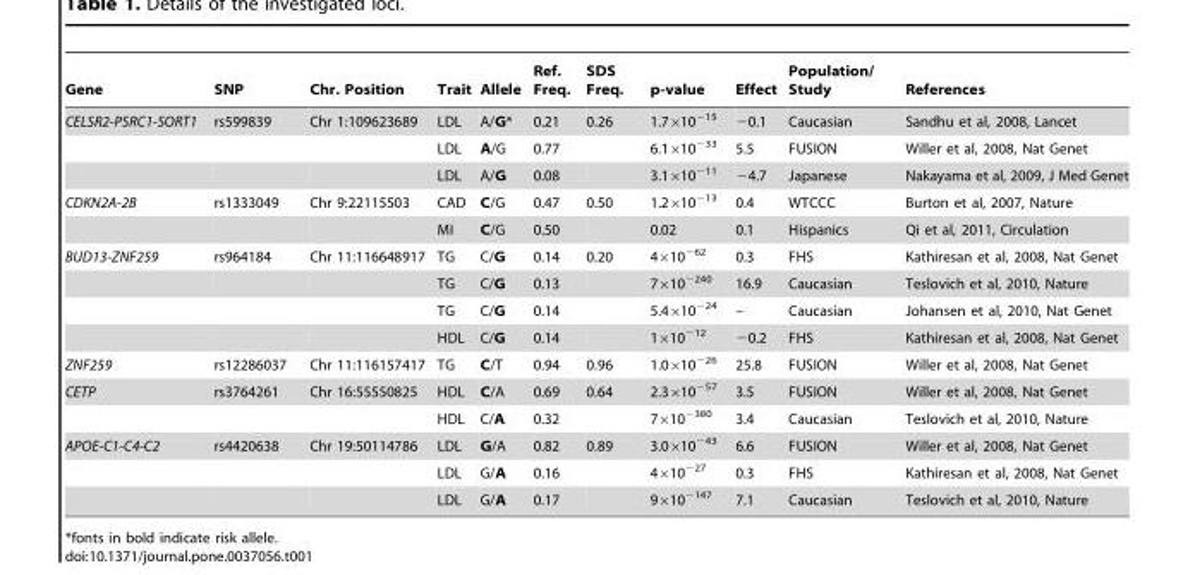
<table><thead><tr><td>Gene</td><td>SNP</td><td>Chr. Position</td><td>Trait</td><td>Allele</td><td>Ref. Freq.</td><td>SDS Freq.</td><td>p-value</td><td>Effect</td><td>Population/ Study</td><td>References</td></tr></thead><tbody><tr><td rowspan="3">CELSR2-PSRC1-SORT1</td><td>rs599839</td><td>Chr 1:109623689</td><td>LDL</td><td>A/G*</td><td>0.21</td><td>0.26</td><td>1.7×10<sup>−15</sup></td><td>−0.1</td><td>Caucasian</td><td>Sandhu et al, 2008, Lancet</td></tr><tr><td></td><td></td><td>LDL</td><td>A/G</td><td>0.77</td><td></td><td>6.1×10<sup>−33</sup></td><td>5.5</td><td>FUSION</td><td>Willer et al, 2008, Nat Genet</td></tr><tr><td></td><td></td><td>LDL</td><td>A/G</td><td>0.08</td><td></td><td>3.1×10<sup>−11</sup></td><td>−4.7</td><td>Japanese</td><td>Nakayama et al, 2009, J Med Genet</td></tr><tr><td rowspan="2">CDKN2A-2B</td><td>rs1333049</td><td>Chr 9:22115503</td><td>CAD</td><td>C/G</td><td>0.47</td><td>0.50</td><td>1.2×10<sup>−13</sup></td><td>0.4</td><td>WTCCC</td><td>Burton et al, 2007, Nature</td></tr><tr><td></td><td></td><td>MI</td><td>C/G</td><td>0.50</td><td></td><td>0.02</td><td>0.1</td><td>Hispanics</td><td>Qi et al, 2011, Circulation</td></tr><tr><td rowspan="4">BUD13-ZNF259</td><td>rs964184</td><td>Chr 11:116648917</td><td>TG</td><td>C/G</td><td>0.14</td><td>0.20</td><td>4×10<sup>−62</sup></td><td>0.3</td><td>FHS</td><td>Kathiresan et al, 2008, Nat Genet</td></tr><tr><td></td><td></td><td>TG</td><td>C/G</td><td>0.13</td><td></td><td>7×10<sup>−240</sup></td><td>16.9</td><td>Caucasian</td><td>Teslovich et al, 2010, Nature</td></tr><tr><td></td><td></td><td>TG</td><td>C/G</td><td>0.14</td><td></td><td>5.4×10<sup>−24</sup></td><td>–</td><td>Caucasian</td><td>Johansen et al, 2010, Nat Genet</td></tr><tr><td></td><td></td><td>HDL</td><td>C/G</td><td>0.14</td><td></td><td>1×10<sup>−12</sup></td><td>−0.2</td><td>FHS</td><td>Kathiresan et al, 2008, Nat Genet</td></tr><tr><td>ZNF259</td><td>rs12286037</td><td>Chr 11:116157417</td><td>TG</td><td>C/T</td><td>0.94</td><td>0.96</td><td>1.0×10<sup>−26</sup></td><td>25.8</td><td>FUSION</td><td>Willer et al, 2008, Nat Genet</td></tr><tr><td rowspan="2">CETP</td><td>rs3764261</td><td>Chr 16:55550825</td><td>HDL</td><td>C/A</td><td>0.69</td><td>0.64</td><td>2.3×10<sup>−57</sup></td><td>3.5</td><td>FUSION</td><td>Willer et al, 2008, Nat Genet</td></tr><tr><td></td><td></td><td>HDL</td><td>C/A</td><td>0.32</td><td></td><td>7×10<sup>−380</sup></td><td>3.4</td><td>Caucasian</td><td>Teslovich et al, 2010, Nature</td></tr><tr><td rowspan="3">APOE-C1-C4-C2</td><td>rs4420638</td><td>Chr 19:50114786</td><td>LDL</td><td>G/A</td><td>0.82</td><td>0.89</td><td>3.0×10<sup>−43</sup></td><td>6.6</td><td>FUSION</td><td>Willer et al, 2008, Nat Genet</td></tr><tr><td></td><td></td><td>LDL</td><td>G/A</td><td>0.16</td><td></td><td>4×10<sup>−27</sup></td><td>0.3</td><td>FHS</td><td>Kathiresan et al, 2008, Nat Genet</td></tr><tr><td></td><td></td><td>LDL</td><td>G/A</td><td>0.17</td><td></td><td>9×10<sup>−147</sup></td><td>7.1</td><td>Caucasian</td><td>Teslovich et al, 2010, Nature</td></tr></tbody></table>